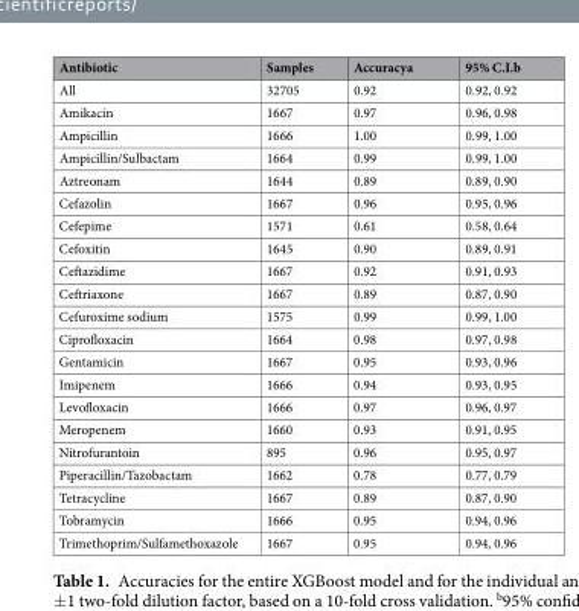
<table><thead><tr><td>Antibiotic</td><td>Samples</td><td>Accuracya</td><td>95% C.I.b</td></tr></thead><tbody><tr><td>All</td><td>32705</td><td>0.92</td><td>0.92, 0.92</td></tr><tr><td>Amikacin</td><td>1667</td><td>0.97</td><td>0.96, 0.98</td></tr><tr><td>Ampicillin</td><td>1666</td><td>1.00</td><td>0.99, 1.00</td></tr><tr><td>Ampicillin/Sulbactam</td><td>1664</td><td>0.99</td><td>0.99, 1.00</td></tr><tr><td>Aztreonam</td><td>1644</td><td>0.89</td><td>0.89, 0.90</td></tr><tr><td>Cefazolin</td><td>1667</td><td>0.96</td><td>0.95, 0.96</td></tr><tr><td>Cefepime</td><td>1571</td><td>0.61</td><td>0.58, 0.64</td></tr><tr><td>Cefoxitin</td><td>1645</td><td>0.90</td><td>0.89, 0.91</td></tr><tr><td>Ceftazidime</td><td>1667</td><td>0.92</td><td>0.91, 0.93</td></tr><tr><td>Ceftriaxone</td><td>1667</td><td>0.89</td><td>0.87, 0.90</td></tr><tr><td>Cefuroxime sodium</td><td>1575</td><td>0.99</td><td>0.99, 1.00</td></tr><tr><td>Ciprofloxacin</td><td>1664</td><td>0.98</td><td>0.97, 0.98</td></tr><tr><td>Gentamicin</td><td>1667</td><td>0.95</td><td>0.93, 0.96</td></tr><tr><td>Imipenem</td><td>1666</td><td>0.94</td><td>0.93, 0.95</td></tr><tr><td>Levofloxacin</td><td>1666</td><td>0.97</td><td>0.96, 0.97</td></tr><tr><td>Meropenem</td><td>1660</td><td>0.93</td><td>0.91, 0.95</td></tr><tr><td>Nitrofurantoin</td><td>895</td><td>0.96</td><td>0.95, 0.97</td></tr><tr><td>Piperacillin/Tazobactam</td><td>1662</td><td>0.78</td><td>0.77, 0.79</td></tr><tr><td>Tetracycline</td><td>1667</td><td>0.89</td><td>0.87, 0.90</td></tr><tr><td>Tobramycin</td><td>1666</td><td>0.95</td><td>0.94, 0.96</td></tr><tr><td>Trimethoprim/Sulfamethoxazole</td><td>1667</td><td>0.95</td><td>0.94, 0.96</td></tr></tbody></table>